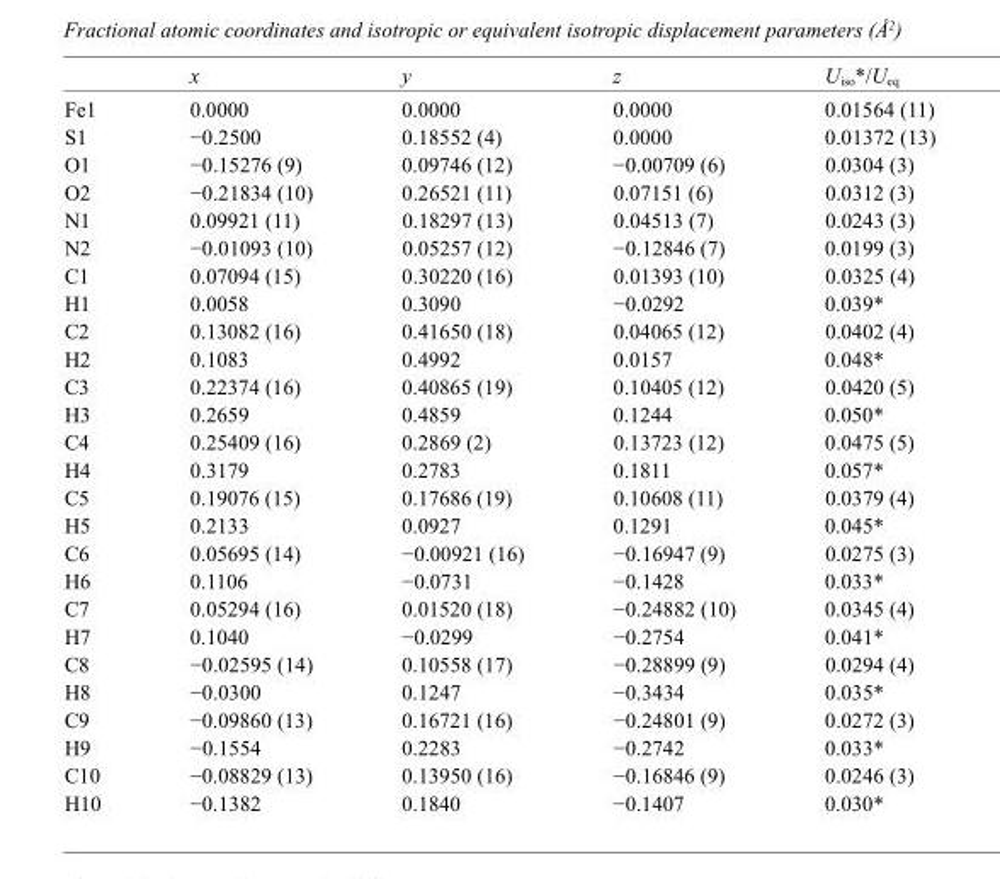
<table><thead><tr><td></td><td>x</td><td>y</td><td>z</td><td>U<sub>iso</sub>*/U<sub>eq</sub></td></tr></thead><tbody><tr><td>Fe1</td><td>0.0000</td><td>0.0000</td><td>0.0000</td><td>0.01564 (11)</td></tr><tr><td>S1</td><td>−0.2500</td><td>0.18552 (4)</td><td>0.0000</td><td>0.01372 (13)</td></tr><tr><td>O1</td><td>−0.15276 (9)</td><td>0.09746 (12)</td><td>−0.00709 (6)</td><td>0.0304 (3)</td></tr><tr><td>O2</td><td>−0.21834 (10)</td><td>0.26521 (11)</td><td>0.07151 (6)</td><td>0.0312 (3)</td></tr><tr><td>N1</td><td>0.09921 (11)</td><td>0.18297 (13)</td><td>0.04513 (7)</td><td>0.0243 (3)</td></tr><tr><td>N2</td><td>−0.01093 (10)</td><td>0.05257 (12)</td><td>−0.12846 (7)</td><td>0.0199 (3)</td></tr><tr><td>C1</td><td>0.07094 (15)</td><td>0.30220 (16)</td><td>0.01393 (10)</td><td>0.0325 (4)</td></tr><tr><td>H1</td><td>0.0058</td><td>0.3090</td><td>−0.0292</td><td>0.039*</td></tr><tr><td>C2</td><td>0.13082 (16)</td><td>0.41650 (18)</td><td>0.04065 (12)</td><td>0.0402 (4)</td></tr><tr><td>H2</td><td>0.1083</td><td>0.4992</td><td>0.0157</td><td>0.048*</td></tr><tr><td>C3</td><td>0.22374 (16)</td><td>0.40865 (19)</td><td>0.10405 (12)</td><td>0.0420 (5)</td></tr><tr><td>H3</td><td>0.2659</td><td>0.4859</td><td>0.1244</td><td>0.050*</td></tr><tr><td>C4</td><td>0.25409 (16)</td><td>0.2869 (2)</td><td>0.13723 (12)</td><td>0.0475 (5)</td></tr><tr><td>H4</td><td>0.3179</td><td>0.2783</td><td>0.1811</td><td>0.057*</td></tr><tr><td>C5</td><td>0.19076 (15)</td><td>0.17686 (19)</td><td>0.10608 (11)</td><td>0.0379 (4)</td></tr><tr><td>H5</td><td>0.2133</td><td>0.0927</td><td>0.1291</td><td>0.045*</td></tr><tr><td>C6</td><td>0.05695 (14)</td><td>−0.00921 (16)</td><td>−0.16947 (9)</td><td>0.0275 (3)</td></tr><tr><td>H6</td><td>0.1106</td><td>−0.0731</td><td>−0.1428</td><td>0.033*</td></tr><tr><td>C7</td><td>0.05294 (16)</td><td>0.01520 (18)</td><td>−0.24882 (10)</td><td>0.0345 (4)</td></tr><tr><td>H7</td><td>0.1040</td><td>−0.0299</td><td>−0.2754</td><td>0.041*</td></tr><tr><td>C8</td><td>−0.02595 (14)</td><td>0.10558 (17)</td><td>−0.28899 (9)</td><td>0.0294 (4)</td></tr><tr><td>H8</td><td>−0.0300</td><td>0.1247</td><td>−0.3434</td><td>0.035*</td></tr><tr><td>C9</td><td>−0.09860 (13)</td><td>0.16721 (16)</td><td>−0.24801 (9)</td><td>0.0272 (3)</td></tr><tr><td>H9</td><td>−0.1554</td><td>0.2283</td><td>−0.2742</td><td>0.033*</td></tr><tr><td>C10</td><td>−0.08829 (13)</td><td>0.13950 (16)</td><td>−0.16846 (9)</td><td>0.0246 (3)</td></tr><tr><td>H10</td><td>−0.1382</td><td>0.1840</td><td>−0.1407</td><td>0.030*</td></tr></tbody></table>